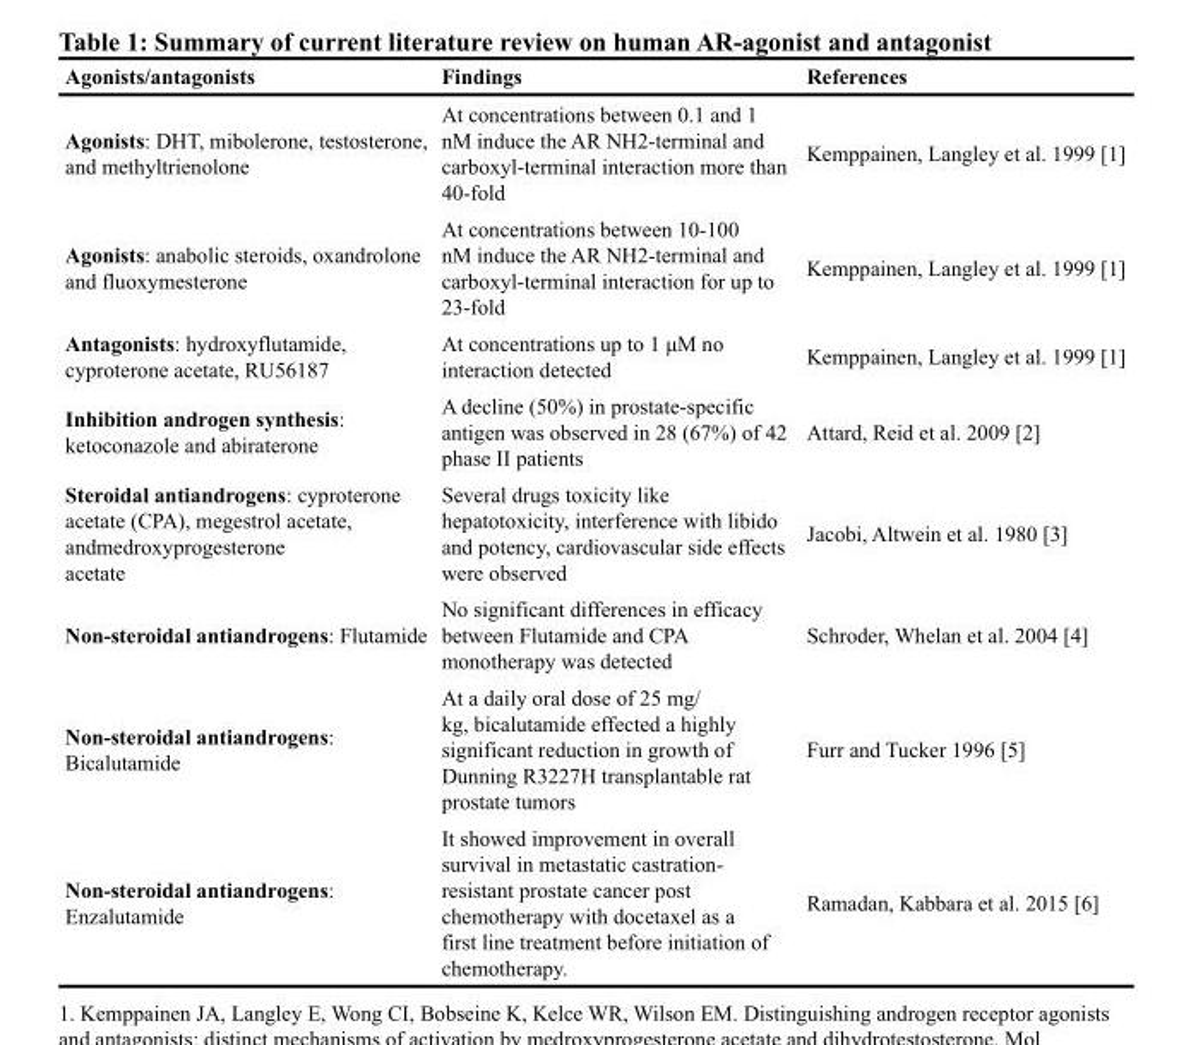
<table><thead><tr><td>Agonists/antagonists</td><td>Findings</td><td>References</td></tr></thead><tbody><tr><td>Agonists: DHT, mibolerone, testosterone, and methyltrienolone</td><td>At concentrations between 0.1 and 1 nM induce the AR NH2-terminal and carboxyl-terminal interaction more than 40-fold</td><td>Kemppainen, Langley et al. 1999 [1]</td></tr><tr><td>Agonists: anabolic steroids, oxandrolone and fluoxymesterone</td><td>At concentrations between 10-100 nM induce the AR NH2-terminal and carboxyl-terminal interaction for up to 23-fold</td><td>Kemppainen, Langley et al. 1999 [1]</td></tr><tr><td>Antagonists: hydroxyflutamide, cyproterone acetate, RU56187</td><td>At concentrations up to 1 μM no interaction detected</td><td>Kemppainen, Langley et al. 1999 [1]</td></tr><tr><td>Inhibition androgen synthesis: ketoconazole and abiraterone</td><td>A decline (50%) in prostate-specific antigen was observed in 28 (67%) of 42 phase II patients</td><td>Attard, Reid et al. 2009 [2]</td></tr><tr><td>Steroidal antiandrogens: cyproterone acetate (CPA), megestrol acetate, andmedroxyprogesterone acetate</td><td>Several drugs toxicity like hepatotoxicity, interference with libido and potency, cardiovascular side effects were observed</td><td>Jacobi, Altwein et al. 1980 [3]</td></tr><tr><td>Non-steroidal antiandrogens: Flutamide</td><td>No significant differences in efficacy between Flutamide and CPA monotherapy was detected</td><td>Schroder, Whelan et al. 2004 [4]</td></tr><tr><td>Non-steroidal antiandrogens: Bicalutamide</td><td>At a daily oral dose of 25 mg/ kg, bicalutamide effected a highly significant reduction in growth of Dunning R3227H transplantable rat prostate tumors</td><td>Furr and Tucker 1996 [5]</td></tr><tr><td>Non-steroidal antiandrogens: Enzalutamide</td><td>It showed improvement in overall survival in metastatic castration- resistant prostate cancer post chemotherapy with docetaxel as a first line treatment before initiation of chemotherapy.</td><td>Ramadan, Kabbara et al. 2015 [6]</td></tr></tbody></table>